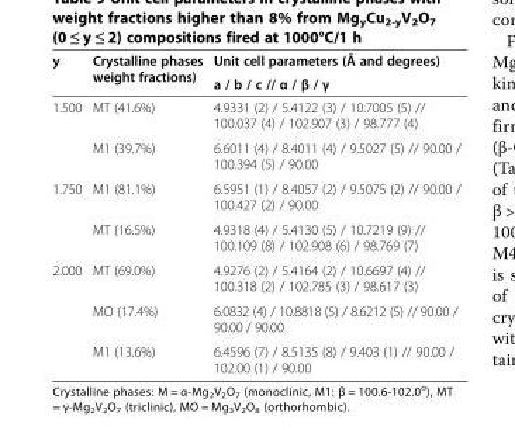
<table><thead><tr><td rowspan="2">y</td><td rowspan="2">Crystalline phases weight fractions)</td><td rowspan="2">Unit cell parameters (Å and degrees) a / b / c // α / β / γ</td></tr><tr></tr></thead><tbody><tr><td rowspan="2">1.500</td><td>MT (41.6%)</td><td>4.9331 (2) / 5.4122 (3) / 10.7005 (5) // 100.037 (4) / 102.907 (3) / 98.777 (4)</td></tr><tr><td>M1 (39.7%)</td><td>6.6011 (4) / 8.4011 (4) / 9.5027 (5) // 90.00 / 100.394 (5) / 90.00</td></tr><tr><td rowspan="2">1.750</td><td>M1 (81.1%)</td><td>6.5951 (1) / 8.4057 (2) / 9.5075 (2) // 90.00 / 100.427 (2) / 90.00</td></tr><tr><td>MT (16.5%)</td><td>4.9318 (4) / 5.4130 (5) / 10.7219 (9) // 100.109 (8) / 102.908 (6) / 98.769 (7)</td></tr><tr><td rowspan="3">2.000</td><td>MT (69.0%)</td><td>4.9276 (2) / 5.4164 (2) / 10.6697 (4) // 100.318 (2) / 102.785 (3) / 98.617 (3)</td></tr><tr><td>MO (17.4%)</td><td>6.0832 (4) / 10.8818 (5) / 8.6212 (5) // 90.00 / 90.00 / 90.00</td></tr><tr><td>M1 (13.6%)</td><td>6.4596 (7) / 8.5135 (8) / 9.403 (1) // 90.00 / 102.00 (1) / 90.00</td></tr></tbody></table>